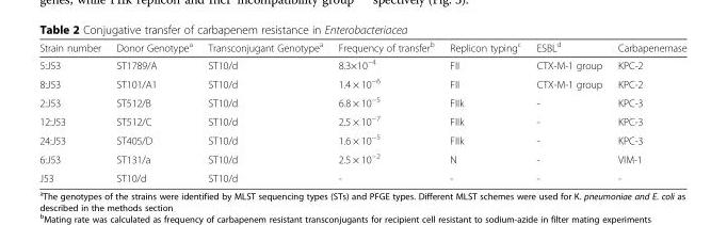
<table><thead><tr><td>Strain number</td><td>Donor Genotype<sup>a</sup></td><td>Transconjugant Genotype<sup>a</sup></td><td>Frequency of transfer<sup>b</sup></td><td>Replicon typing<sup>c</sup></td><td>ESBL<sup>d</sup></td><td>Carbapenemase</td></tr></thead><tbody><tr><td>5:J53</td><td>ST1789/A</td><td>ST10/d</td><td>8.3×10<sup>−4</sup></td><td>FII</td><td>CTX-M-1 group</td><td>KPC-2</td></tr><tr><td>8:J53</td><td>ST101/A1</td><td>ST10/d</td><td>1.4 × 10<sup>−6</sup></td><td>FII</td><td>CTX-M-1 group</td><td>KPC-2</td></tr><tr><td>2:J53</td><td>ST512/B</td><td>ST10/d</td><td>6.8 × 10<sup>−5</sup></td><td>FIIk</td><td>-</td><td>KPC-3</td></tr><tr><td>12:J53</td><td>ST512/C</td><td>ST10/d</td><td>2.5 × 10<sup>−7</sup></td><td>FIIk</td><td>-</td><td>KPC-3</td></tr><tr><td>24:J53</td><td>ST405/D</td><td>ST10/d</td><td>1.6 × 10<sup>−5</sup></td><td>FIIk</td><td>-</td><td>KPC-3</td></tr><tr><td>6:J53</td><td>ST131/a</td><td>ST10/d</td><td>2.5 × 10<sup>−2</sup></td><td>N</td><td>-</td><td>VIM-1</td></tr><tr><td>J53</td><td>ST10/d</td><td>ST10/d</td><td>-</td><td>-</td><td>-</td><td>-</td></tr></tbody></table>